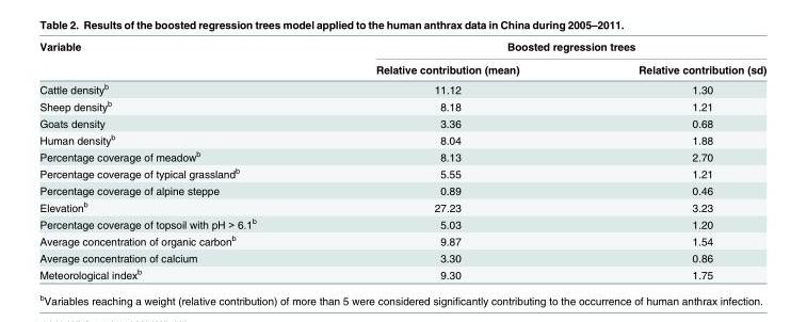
<table><thead><tr><td rowspan="2">Variable</td><td colspan="2">Boosted regression trees</td></tr><tr><td>Relative contribution (mean)</td><td>Relative contribution (sd)</td></tr></thead><tbody><tr><td>Cattle density<sup>b</sup></td><td>11.12</td><td>1.30</td></tr><tr><td>Sheep density<sup>b</sup></td><td>8.18</td><td>1.21</td></tr><tr><td>Goats density</td><td>3.36</td><td>0.68</td></tr><tr><td>Human density<sup>b</sup></td><td>8.04</td><td>1.88</td></tr><tr><td>Percentage coverage of meadow<sup>b</sup></td><td>8.13</td><td>2.70</td></tr><tr><td>Percentage coverage of typical grassland<sup>b</sup></td><td>5.55</td><td>1.21</td></tr><tr><td>Percentage coverage of alpine steppe</td><td>0.89</td><td>0.46</td></tr><tr><td>Elevation<sup>b</sup></td><td>27.23</td><td>3.23</td></tr><tr><td>Percentage coverage of topsoil with pH &gt; 6.1<sup>b</sup></td><td>5.03</td><td>1.20</td></tr><tr><td>Average concentration of organic carbon<sup>b</sup></td><td>9.87</td><td>1.54</td></tr><tr><td>Average concentration of calcium</td><td>3.30</td><td>0.86</td></tr><tr><td>Meteorological index<sup>b</sup></td><td>9.30</td><td>1.75</td></tr></tbody></table>